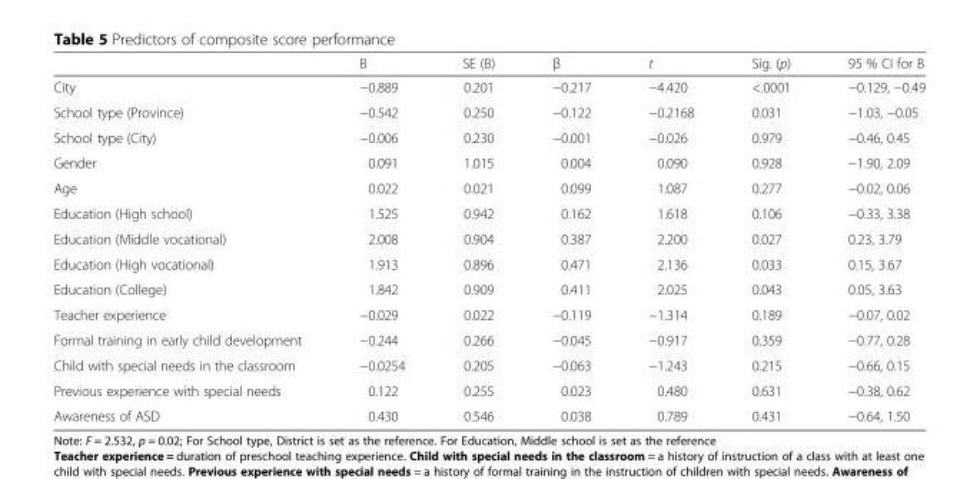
<table><thead><tr><td></td><td>B</td><td>SE (B)</td><td>β</td><td>t</td><td>Sig. (p)</td><td>95 % CI for B</td></tr></thead><tbody><tr><td>City</td><td>−0.889</td><td>0.201</td><td>−0.217</td><td>−4.420</td><td>&lt;.0001</td><td>−0.129, −0.49</td></tr><tr><td>School type (Province)</td><td>−0.542</td><td>0.250</td><td>−0.122</td><td>−0.2168</td><td>0.031</td><td>−1.03, −0.05</td></tr><tr><td>School type (City)</td><td>−0.006</td><td>0.230</td><td>−0.001</td><td>−0.026</td><td>0.979</td><td>−0.46, 0.45</td></tr><tr><td>Gender</td><td>0.091</td><td>1.015</td><td>0.004</td><td>0.090</td><td>0.928</td><td>−1.90, 2.09</td></tr><tr><td>Age</td><td>0.022</td><td>0.021</td><td>0.099</td><td>1.087</td><td>0.277</td><td>−0.02, 0.06</td></tr><tr><td>Education (High school)</td><td>1.525</td><td>0.942</td><td>0.162</td><td>1.618</td><td>0.106</td><td>−0.33, 3.38</td></tr><tr><td>Education (Middle vocational)</td><td>2.008</td><td>0.904</td><td>0.387</td><td>2.200</td><td>0.027</td><td>0.23, 3.79</td></tr><tr><td>Education (High vocational)</td><td>1.913</td><td>0.896</td><td>0.471</td><td>2.136</td><td>0.033</td><td>0.15, 3.67</td></tr><tr><td>Education (College)</td><td>1.842</td><td>0.909</td><td>0.411</td><td>2.025</td><td>0.043</td><td>0.05, 3.63</td></tr><tr><td>Teacher experience</td><td>−0.029</td><td>0.022</td><td>−0.119</td><td>−1.314</td><td>0.189</td><td>−0.07, 0.02</td></tr><tr><td>Formal training in early child development</td><td>−0.244</td><td>0.266</td><td>−0.045</td><td>−0.917</td><td>0.359</td><td>−0.77, 0.28</td></tr><tr><td>Child with special needs in the classroom</td><td>−0.0254</td><td>0.205</td><td>−0.063</td><td>−1.243</td><td>0.215</td><td>−0.66, 0.15</td></tr><tr><td>Previous experience with special needs</td><td>0.122</td><td>0.255</td><td>0.023</td><td>0.480</td><td>0.631</td><td>−0.38, 0.62</td></tr><tr><td>Awareness of ASD</td><td>0.430</td><td>0.546</td><td>0.038</td><td>0.789</td><td>0.431</td><td>−0.64, 1.50</td></tr></tbody></table>